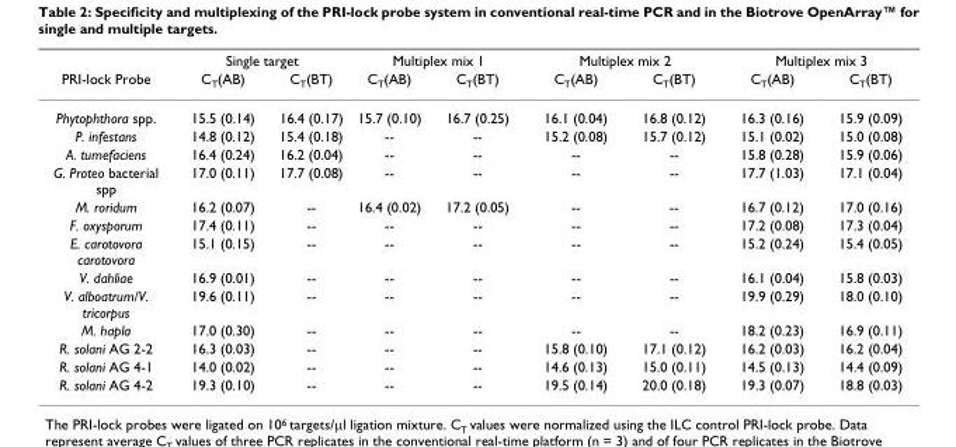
<table><thead><tr><td rowspan="2">PRI-lock Probe</td><td colspan="2">Single target</td><td colspan="2">Multiplex mix 1</td><td colspan="2">Multiplex mix 2</td><td colspan="2">Multiplex mix 3</td></tr><tr><td>C<sub>T</sub>(AB)</td><td>C<sub>T</sub>(BT)</td><td>C<sub>T</sub>(AB)</td><td>C<sub>T</sub>(BT)</td><td>C<sub>T</sub>(AB)</td><td>C<sub>T</sub>(BT)</td><td>C<sub>T</sub>(AB)</td><td>C<sub>T</sub>(BT)</td></tr></thead><tbody><tr><td>Phytophthora spp.</td><td>15.5 (0.14)</td><td>16.4 (0.17)</td><td>15.7 (0.10)</td><td>16.7 (0.25)</td><td>16.1 (0.04)</td><td>16.8 (0.12)</td><td>16.3 (0.16)</td><td>15.9 (0.09)</td></tr><tr><td>P. infestans</td><td>14.8 (0.12)</td><td>15.4 (0.18)</td><td>--</td><td>--</td><td>15.2 (0.08)</td><td>15.7 (0.12)</td><td>15.1 (0.02)</td><td>15.0 (0.08)</td></tr><tr><td>A. tumefaciens</td><td>16.4 (0.24)</td><td>16.2 (0.04)</td><td>--</td><td>--</td><td>--</td><td>--</td><td>15.8 (0.28)</td><td>15.9 (0.06)</td></tr><tr><td>G. Proteo bacterial spp</td><td>17.0 (0.11)</td><td>17.7 (0.08)</td><td>--</td><td>--</td><td>--</td><td>--</td><td>17.7 (1.03)</td><td>17.1 (0.04)</td></tr><tr><td>M. roridum</td><td>16.2 (0.07)</td><td>--</td><td>16.4 (0.02)</td><td>17.2 (0.05)</td><td>--</td><td>--</td><td>16.7 (0.12)</td><td>17.0 (0.16)</td></tr><tr><td>F. oxysporum</td><td>17.4 (0.11)</td><td>--</td><td>--</td><td>--</td><td>--</td><td>--</td><td>17.2 (0.08)</td><td>17.3 (0.04)</td></tr><tr><td>E. carotovora carotovora</td><td>15.1 (0.15)</td><td>--</td><td>--</td><td>--</td><td>--</td><td>--</td><td>15.2 (0.24)</td><td>15.4 (0.05)</td></tr><tr><td>V. dahliae</td><td>16.9 (0.01)</td><td>--</td><td>--</td><td>--</td><td>--</td><td>--</td><td>16.1 (0.04)</td><td>15.8 (0.03)</td></tr><tr><td>V. alboatrum/V. tricorpus</td><td>19.6 (0.11)</td><td>--</td><td>--</td><td>--</td><td>--</td><td>--</td><td>19.9 (0.29)</td><td>18.0 (0.10)</td></tr><tr><td>M. hapla</td><td>17.0 (0.30)</td><td>--</td><td>--</td><td>--</td><td>--</td><td>--</td><td>18.2 (0.23)</td><td>16.9 (0.11)</td></tr><tr><td>R. solani AG 2-2</td><td>16.3 (0.03)</td><td>--</td><td>--</td><td>--</td><td>15.8 (0.10)</td><td>17.1 (0.12)</td><td>16.2 (0.03)</td><td>16.2 (0.04)</td></tr><tr><td>R. solani AG 4-1</td><td>14.0 (0.02)</td><td>--</td><td>--</td><td>--</td><td>14.6 (0.13)</td><td>15.0 (0.11)</td><td>14.5 (0.13)</td><td>14.4 (0.09)</td></tr><tr><td>R. solani AG 4-2</td><td>19.3 (0.10)</td><td>--</td><td>--</td><td>--</td><td>19.5 (0.14)</td><td>20.0 (0.18)</td><td>19.3 (0.07)</td><td>18.8 (0.03)</td></tr></tbody></table>